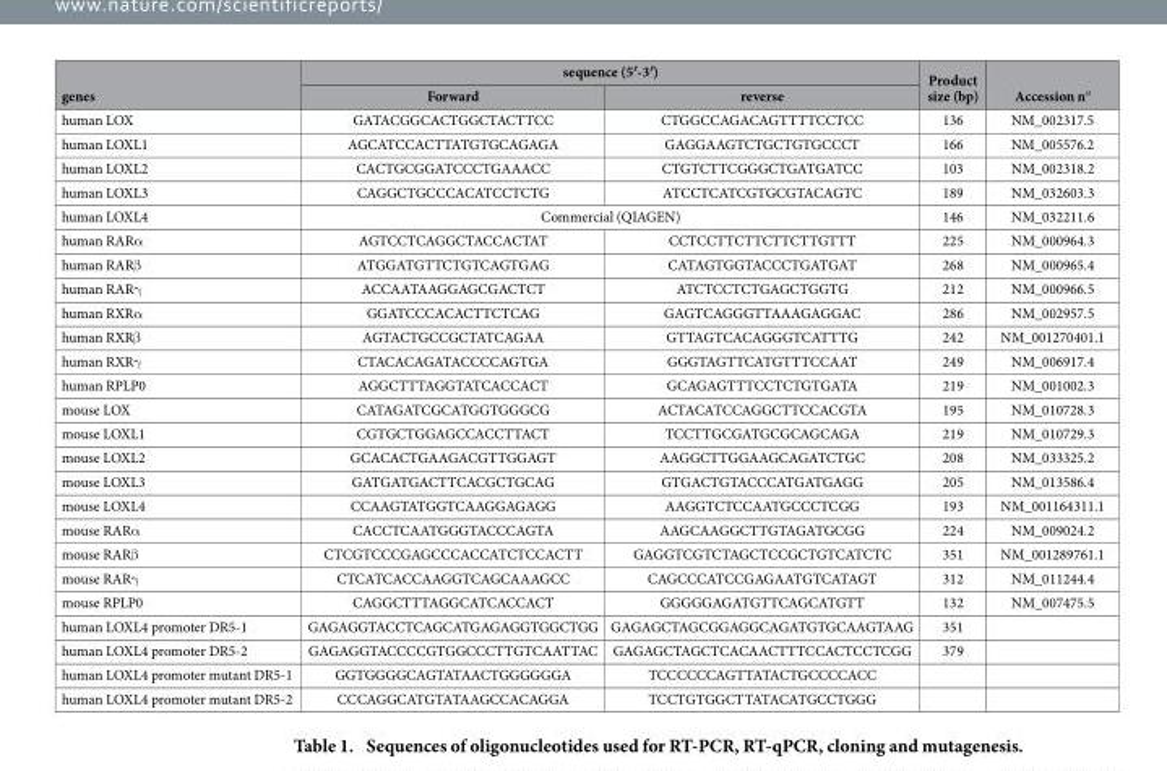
<table><thead><tr><td rowspan="2">genes</td><td colspan="2">sequence (5′-3′)</td><td rowspan="2">Product size (bp)</td><td rowspan="2">Accession n°</td></tr><tr><td>Forward</td><td>reverse</td></tr></thead><tbody><tr><td>human LOX</td><td>GATACGGCACTGGCTACTTCC</td><td>CTGGCCAGACAGTTTTCCTCC</td><td>136</td><td>NM_002317.5</td></tr><tr><td>human LOXL1</td><td>AGCATCCACTTATGTGCAGAGA</td><td>GAGGAAGTCTGCTGTGCCCT</td><td>166</td><td>NM_005576.2</td></tr><tr><td>human LOXL2</td><td>CACTGCGGATCCCTGAAACC</td><td>CTGTCTTCGGGCTGATGATCC</td><td>103</td><td>NM_002318.2</td></tr><tr><td>human LOXL3</td><td>CAGGCTGCCCACATCCTCTG</td><td>ATCCTCATCGTGCGTACAGTC</td><td>189</td><td>NM_032603.3</td></tr><tr><td>human LOXL4</td><td colspan="2">Commercial (QIAGEN)</td><td>146</td><td>NM_032211.6</td></tr><tr><td>human RARα</td><td>AGTCCTCAGGCTACCACTAT</td><td>CCTCCTTCTTCTTCTTGTTT</td><td>225</td><td>NM_000964.3</td></tr><tr><td>human RARβ</td><td>ATGGATGTTCTGTCAGTGAG</td><td>CATAGTGGTACCCTGATGAT</td><td>268</td><td>NM_000965.4</td></tr><tr><td>human RARγ</td><td>ACCAATAAGGAGCGACTCT</td><td>ATCTCCTCTGAGCTGGTG</td><td>212</td><td>NM_000966.5</td></tr><tr><td>human RXRα</td><td>GGATCCCACACTTCTCAG</td><td>GAGTCAGGGTTAAAGAGGAC</td><td>286</td><td>NM_002957.5</td></tr><tr><td>human RXRβ</td><td>AGTACTGCCGCTATCAGAA</td><td>GTTAGTCACAGGGTCATTTG</td><td>242</td><td>NM_001270401.1</td></tr><tr><td>human RXRγ</td><td>CTACACAGATACCCCAGTGA</td><td>GGGTAGTTCATGTTTCCAAT</td><td>249</td><td>NM_006917.4</td></tr><tr><td>human RPLP0</td><td>AGGCTTTAGGTATCACCACT</td><td>GCAGAGTTTCCTCTGTGATA</td><td>219</td><td>NM_001002.3</td></tr><tr><td>mouse LOX</td><td>CATAGATCGCATGGTGGGCG</td><td>ACTACATCCAGGCTTCCACGTA</td><td>195</td><td>NM_010728.3</td></tr><tr><td>mouse LOXL1</td><td>CGTGCTGGAGCCACCTTACT</td><td>TCCTTGCGATGCGCAGCAGA</td><td>219</td><td>NM_010729.3</td></tr><tr><td>mouse LOXL2</td><td>GCACACTGAAGACGTTGGAGT</td><td>AAGGCTTGGAAGCAGATCTGC</td><td>208</td><td>NM_033325.2</td></tr><tr><td>mouse LOXL3</td><td>GATGATGACTTCACGCTGCAG</td><td>GTGACTGTACCCATGATGAGG</td><td>205</td><td>NM_013586.4</td></tr><tr><td>mouse LOXL4</td><td>CCAAGTATGGTCAAGGAGAGG</td><td>AAGGTCTCCAATGCCCTCGG</td><td>193</td><td>NM_001164311.1</td></tr><tr><td>mouse RARα</td><td>CACCTCAATGGGTACCCAGTA</td><td>AAGCAAGGCTTGTAGATGCGG</td><td>224</td><td>NM_009024.2</td></tr><tr><td>mouse RARβ</td><td>CTCGTCCCGAGCCCACCATCTCCACTT</td><td>GAGGTCGTCTAGCTCCGCTGTCATCTC</td><td>351</td><td>NM_001289761.1</td></tr><tr><td>mouse RARγ</td><td>CTCATCACCAAGGTCAGCAAAGCC</td><td>CAGCCCATCCGAGAATGTCATAGT</td><td>312</td><td>NM_011244.4</td></tr><tr><td>mouse RPLP0</td><td>CAGGCTTTAGGCATCACCACT</td><td>GGGGGAGATGTTCAGCATGTT</td><td>132</td><td>NM_007475.5</td></tr><tr><td>human LOXL4 promoter DR5-1</td><td>GAGAGGTACCTCAGCATGAGAGGTGGCTGG</td><td>GAGAGCTAGCGGAGGCAGATGTGCAAGTAAG</td><td>351</td><td></td></tr><tr><td>human LOXL4 promoter DR5-2</td><td>GAGAGGTACCCCGTGGCCCTTGTCAATTAC</td><td>GAGAGCTAGCTCACAACTTTCCACTCCTCGG</td><td>379</td><td></td></tr><tr><td>human LOXL4 promoter mutant DR5-1</td><td>GGTGGGGCAGTATAACTGGGGGGA</td><td>TCCCCCCAGTTATACTGCCCCACC</td><td></td><td></td></tr><tr><td>human LOXL4 promoter mutant DR5-2</td><td>CCCAGGCATGTATAAGCCACAGGA</td><td>TCCTGTGGCTTATACATGCCTGGG</td><td></td><td></td></tr></tbody></table>